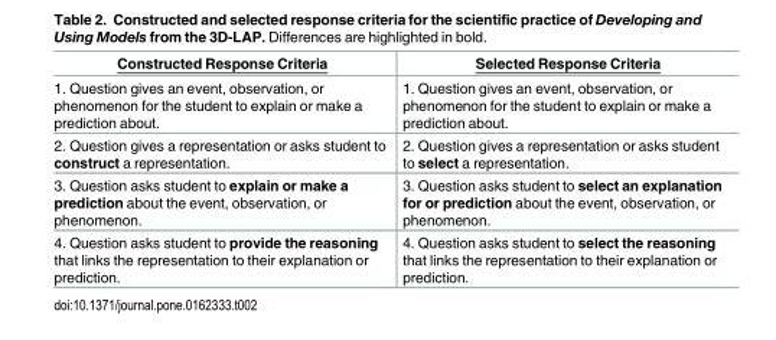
<table><thead><tr><td>Constructed Response Criteria</td><td>Selected Response Criteria</td></tr></thead><tbody><tr><td>1. Question gives an event, observation, or phenomenon for the student to explain or make a prediction about.</td><td>1. Question gives an event, observation, or phenomenon for the student to explain or make a prediction about.</td></tr><tr><td>2. Question gives a representation or asks student to construct a representation.</td><td>2. Question gives a representation or asks student to select a representation.</td></tr><tr><td>3. Question asks student to explain or make a prediction about the event, observation, or phenomenon.</td><td>3. Question asks student to select an explanation for or prediction about the event, observation, or phenomenon.</td></tr><tr><td>4. Question asks student to provide the reasoning that links the representation to their explanation or prediction.</td><td>4. Question asks student to select the reasoning that links the representation to their explanation or prediction.</td></tr></tbody></table>